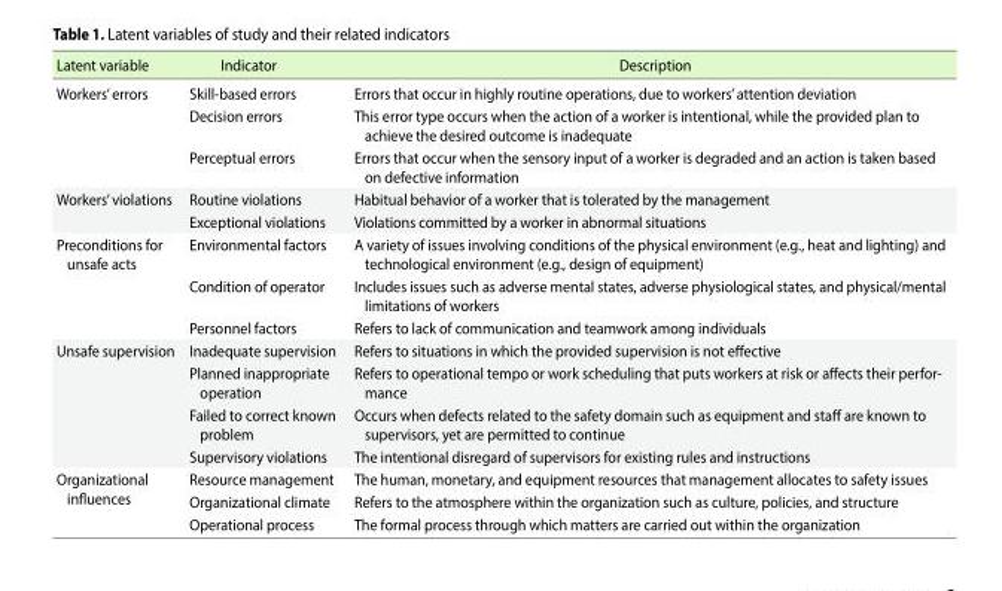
<table><thead><tr><td>Latent variable</td><td>Indicator</td><td>Description</td></tr></thead><tbody><tr><td rowspan="3">Workers’ errors</td><td>Skill-based errors</td><td>Errors that occur in highly routine operations, due to workers’ attention deviation</td></tr><tr><td>Decision errors</td><td>This error type occurs when the action of a worker is intentional, while the provided plan to achieve the desired outcome is inadequate</td></tr><tr><td>Perceptual errors</td><td>Errors that occur when the sensory input of a worker is degraded and an action is taken based on defective information</td></tr><tr><td rowspan="2">Workers’ violations</td><td>Routine violations</td><td>Habitual behavior of a worker that is tolerated by the management</td></tr><tr><td>Exceptional violations</td><td>Violations committed by a worker in abnormal situations</td></tr><tr><td rowspan="3">Preconditions for unsafe acts</td><td>Environmental factors</td><td>A variety of issues involving conditions of the physical environment (e.g., heat and lighting) and technological environment (e.g., design of equipment)</td></tr><tr><td>Condition of operator</td><td>Includes issues such as adverse mental states, adverse physiological states, and physical/mental limitations of workers</td></tr><tr><td>Personnel factors</td><td>Refers to lack of communication and teamwork among individuals</td></tr><tr><td rowspan="4">Unsafe supervision</td><td>Inadequate supervision</td><td>Refers to situations in which the provided supervision is not effective</td></tr><tr><td>Planned inappropriate operation</td><td>Refers to operational tempo or work scheduling that puts workers at risk or affects their perfor- mance</td></tr><tr><td>Failed to correct known problem</td><td>Occurs when defects related to the safety domain such as equipment and staff are known to supervisors, yet are permitted to continue</td></tr><tr><td>Supervisory violations</td><td>The intentional disregard of supervisors for existing rules and instructions</td></tr><tr><td rowspan="3">Organizational influences</td><td>Resource management</td><td>The human, monetary, and equipment resources that management allocates to safety issues</td></tr><tr><td>Organizational climate</td><td>Refers to the atmosphere within the organization such as culture, policies, and structure</td></tr><tr><td>Operational process</td><td>The formal process through which matters are carried out within the organization</td></tr></tbody></table>